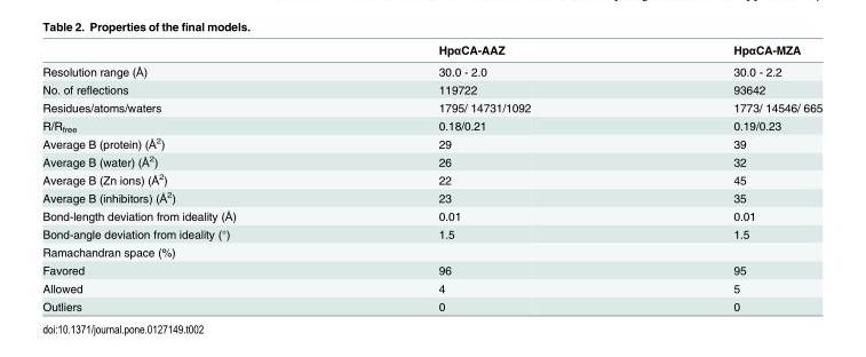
<table><thead><tr><td></td><td>HpαCA-AAZ</td><td>HpαCA-MZA</td></tr></thead><tbody><tr><td>Resolution range (Å)</td><td>30.0 - 2.0</td><td>30.0 - 2.2</td></tr><tr><td>No. of reflections</td><td>119722</td><td>93642</td></tr><tr><td>Residues/atoms/waters</td><td>1795/ 14731/1092</td><td>1773/ 14546/ 665</td></tr><tr><td>R/R<sub>free</sub></td><td>0.18/0.21</td><td>0.19/0.23</td></tr><tr><td>Average B (protein) (Å<sup>2</sup>)</td><td>29</td><td>39</td></tr><tr><td>Average B (water) (Å<sup>2</sup>)</td><td>26</td><td>32</td></tr><tr><td>Average B (Zn ions) (Å<sup>2</sup>)</td><td>22</td><td>45</td></tr><tr><td>Average B (inhibitors) (Å<sup>2</sup>)</td><td>23</td><td>35</td></tr><tr><td>Bond-length deviation from ideality (Å)</td><td>0.01</td><td>0.01</td></tr><tr><td>Bond-angle deviation from ideality (°)</td><td>1.5</td><td>1.5</td></tr><tr><td colspan="3">Ramachandran space (%)</td></tr><tr><td>Favored</td><td>96</td><td>95</td></tr><tr><td>Allowed</td><td>4</td><td>5</td></tr><tr><td>Outliers</td><td>0</td><td>0</td></tr></tbody></table>